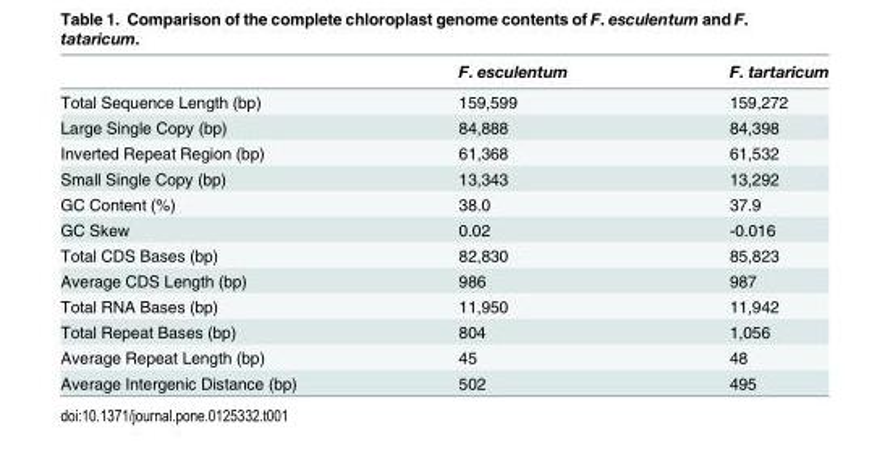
<table><thead><tr><td></td><td>F. esculentum</td><td>F. tartaricum</td></tr></thead><tbody><tr><td>Total Sequence Length (bp)</td><td>159,599</td><td>159,272</td></tr><tr><td>Large Single Copy (bp)</td><td>84,888</td><td>84,398</td></tr><tr><td>Inverted Repeat Region (bp)</td><td>61,368</td><td>61,532</td></tr><tr><td>Small Single Copy (bp)</td><td>13,343</td><td>13,292</td></tr><tr><td>GC Content (%)</td><td>38.0</td><td>37.9</td></tr><tr><td>GC Skew</td><td>0.02</td><td>-0.016</td></tr><tr><td>Total CDS Bases (bp)</td><td>82,830</td><td>85,823</td></tr><tr><td>Average CDS Length (bp)</td><td>986</td><td>987</td></tr><tr><td>Total RNA Bases (bp)</td><td>11,950</td><td>11,942</td></tr><tr><td>Total Repeat Bases (bp)</td><td>804</td><td>1,056</td></tr><tr><td>Average Repeat Length (bp)</td><td>45</td><td>48</td></tr><tr><td>Average Intergenic Distance (bp)</td><td>502</td><td>495</td></tr></tbody></table>